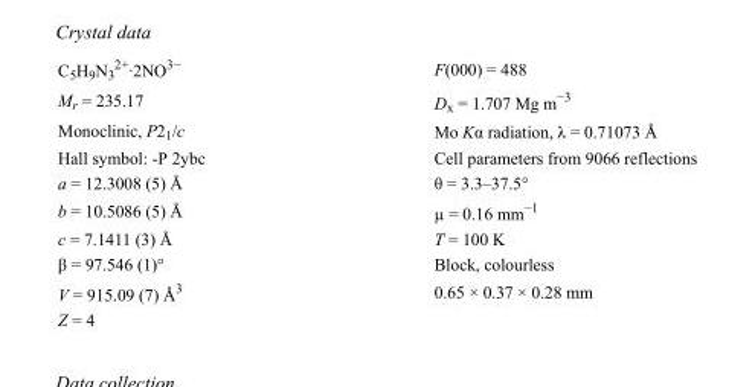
<table><tbody><tr><td>C<sub>5</sub>H<sub>9</sub>N<sub>3</sub> <sup>2+</sup>·2NO<sup>3−</sup></td><td>F(000) = 488</td></tr><tr><td>M<sub>r</sub> = 235.17</td><td>D<sub>x</sub> = 1.707 Mg m<sup>−3</sup></td></tr><tr><td>Monoclinic, P2<sub>1</sub>/c</td><td>Mo Kα radiation, λ = 0.71073 Å</td></tr><tr><td>Hall symbol: -P 2ybc</td><td>Cell parameters from 9066 reflections</td></tr><tr><td>a = 12.3008 (5) Å</td><td>θ = 3.3–37.5°</td></tr><tr><td>b = 10.5086 (5) Å</td><td>µ = 0.16 mm<sup>−1</sup></td></tr><tr><td>c = 7.1411 (3) Å</td><td>T = 100 K</td></tr><tr><td>β = 97.546 (1)°</td><td>Block, colourless</td></tr><tr><td>V = 915.09 (7) Å<sup>3</sup></td><td>0.65 × 0.37 × 0.28 mm</td></tr><tr><td>Z = 4</td><td></td></tr></tbody></table>